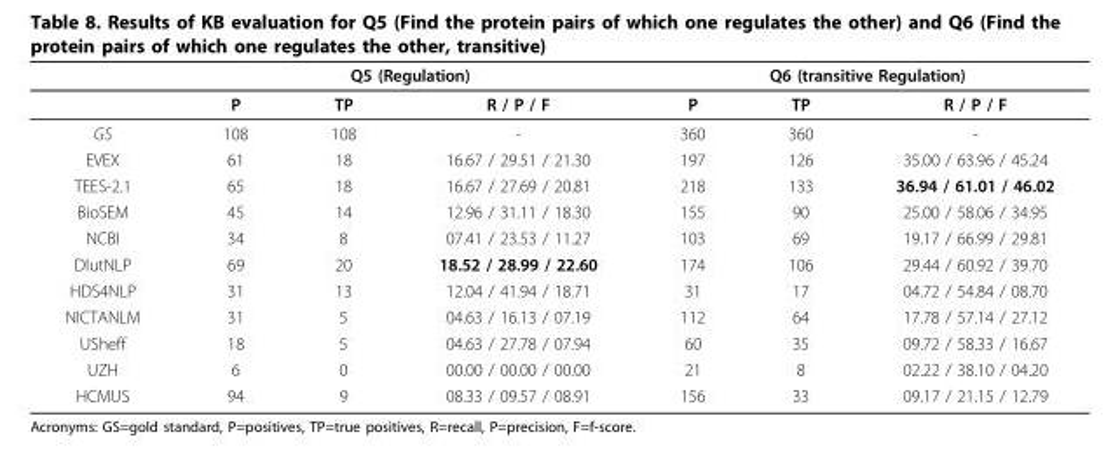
<table><thead><tr><td rowspan="2"></td><td colspan="3">Q5 (Regulation)</td><td colspan="3">Q6 (transitive Regulation)</td></tr><tr><td>P</td><td>TP</td><td>R / P / F</td><td>P</td><td>TP</td><td>R / P / F</td></tr></thead><tbody><tr><td>GS</td><td>108</td><td>108</td><td>-</td><td>360</td><td>360</td><td>-</td></tr><tr><td>EVEX</td><td>61</td><td>18</td><td>16.67 / 29.51 / 21.30</td><td>197</td><td>126</td><td>35.00 / 63.96 / 45.24</td></tr><tr><td>TEES-2.1</td><td>65</td><td>18</td><td>16.67 / 27.69 / 20.81</td><td>218</td><td>133</td><td>36.94 / 61.01 / 46.02</td></tr><tr><td>BioSEM</td><td>45</td><td>14</td><td>12.96 / 31.11 / 18.30</td><td>155</td><td>90</td><td>25.00 / 58.06 / 34.95</td></tr><tr><td>NCBI</td><td>34</td><td>8</td><td>07.41 / 23.53 / 11.27</td><td>103</td><td>69</td><td>19.17 / 66.99 / 29.81</td></tr><tr><td>DlutNLP</td><td>69</td><td>20</td><td>18.52 / 28.99 / 22.60</td><td>174</td><td>106</td><td>29.44 / 60.92 / 39.70</td></tr><tr><td>HDS4NLP</td><td>31</td><td>13</td><td>12.04 / 41.94 / 18.71</td><td>31</td><td>17</td><td>04.72 / 54.84 / 08.70</td></tr><tr><td>NICTANLM</td><td>31</td><td>5</td><td>04.63 / 16.13 / 07.19</td><td>112</td><td>64</td><td>17.78 / 57.14 / 27.12</td></tr><tr><td>USheff</td><td>18</td><td>5</td><td>04.63 / 27.78 / 07.94</td><td>60</td><td>35</td><td>09.72 / 58.33 / 16.67</td></tr><tr><td>UZH</td><td>6</td><td>0</td><td>00.00 / 00.00 / 00.00</td><td>21</td><td>8</td><td>02.22 / 38.10 / 04.20</td></tr><tr><td>HCMUS</td><td>94</td><td>9</td><td>08.33 / 09.57 / 08.91</td><td>156</td><td>33</td><td>09.17 / 21.15 / 12.79</td></tr></tbody></table>